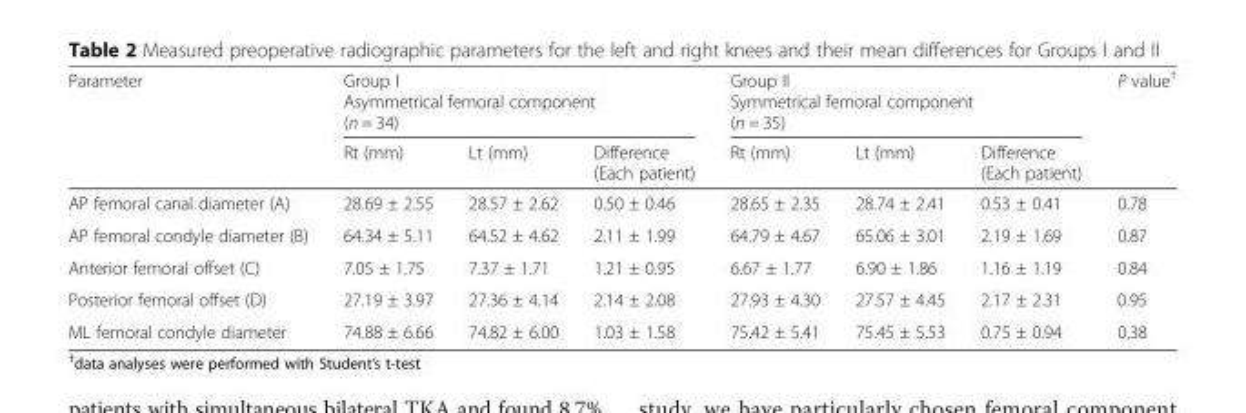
<table><thead><tr><td rowspan="4">Parameter</td><td rowspan="3" colspan="3">Group I Asymmetrical femoral component (n = 34)</td><td rowspan="3" colspan="3">Group II Symmetrical femoral component (n = 35)</td><td rowspan="4">P value<sup>†</sup></td></tr><tr></tr><tr></tr><tr><td>Rt (mm)</td><td>Lt (mm)</td><td>Difference (Each patient)</td><td>Rt (mm)</td><td>Lt (mm)</td><td>Difference (Each patient)</td></tr></thead><tbody><tr><td>AP femoral canal diameter (A)</td><td>28.69 ± 2.55</td><td>28.57 ± 2.62</td><td>0.50 ± 0.46</td><td>28.65 ± 2.35</td><td>28.74 ± 2.41</td><td>0.53 ± 0.41</td><td>0.78</td></tr><tr><td>AP femoral condyle diameter (B)</td><td>64.34 ± 5.11</td><td>64.52 ± 4.62</td><td>2.11 ± 1.99</td><td>64.79 ± 4.67</td><td>65.06 ± 3.01</td><td>2.19 ± 1.69</td><td>0.87</td></tr><tr><td>Anterior femoral offset (C)</td><td>7.05 ± 1.75</td><td>7.37 ± 1.71</td><td>1.21 ± 0.95</td><td>6.67 ± 1.77</td><td>6.90 ± 1.86</td><td>1.16 ± 1.19</td><td>0.84</td></tr><tr><td>Posterior femoral offset (D)</td><td>27.19 ± 3.97</td><td>27.36 ± 4.14</td><td>2.14 ± 2.08</td><td>27.93 ± 4.30</td><td>27.57 ± 4.45</td><td>2.17 ± 2.31</td><td>0.95</td></tr><tr><td>ML femoral condyle diameter</td><td>74.88 ± 6.66</td><td>74.82 ± 6.00</td><td>1.03 ± 1.58</td><td>75.42 ± 5.41</td><td>75.45 ± 5.53</td><td>0.75 ± 0.94</td><td>0.38</td></tr></tbody></table>